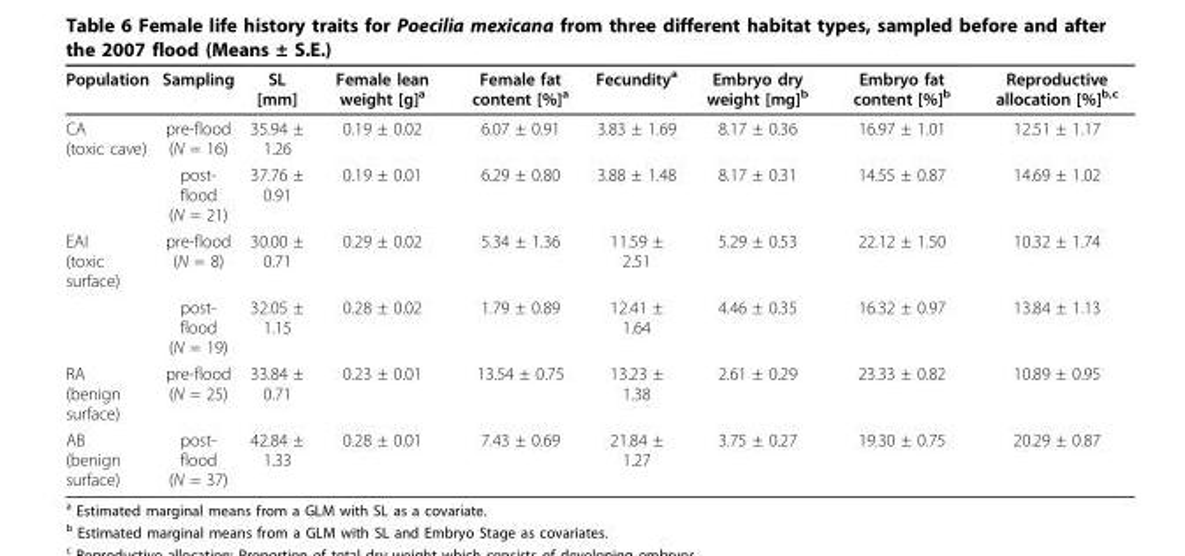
<table><thead><tr><td>Population</td><td>Sampling</td><td>SL [mm]</td><td>Female lean weight [g]<sup>a</sup></td><td>Female fat content [%]<sup>a</sup></td><td>Fecundity<sup>a</sup></td><td>Embryo dry weight [mg]<sup>b</sup></td><td>Embryo fat content [%]<sup>b</sup></td><td>Reproductive allocation [%]<sup>b,c</sup></td></tr></thead><tbody><tr><td rowspan="2">CA (toxic cave)</td><td>pre-flood (N = 16)</td><td>35.94 ± 1.26</td><td>0.19 ± 0.02</td><td>6.07 ± 0.91</td><td>3.83 ± 1.69</td><td>8.17 ± 0.36</td><td>16.97 ± 1.01</td><td>12.51 ± 1.17</td></tr><tr><td>post- flood (N = 21)</td><td>37.76 ± 0.91</td><td>0.19 ± 0.01</td><td>6.29 ± 0.80</td><td>3.88 ± 1.48</td><td>8.17 ± 0.31</td><td>14.55 ± 0.87</td><td>14.69 ± 1.02</td></tr><tr><td rowspan="2">EAI (toxic surface)</td><td>pre-flood (N = 8)</td><td>30.00 ± 0.71</td><td>0.29 ± 0.02</td><td>5.34 ± 1.36</td><td>11.59 ± 2.51</td><td>5.29 ± 0.53</td><td>22.12 ± 1.50</td><td>10.32 ± 1.74</td></tr><tr><td>post- flood (N = 19)</td><td>32.05 ± 1.15</td><td>0.28 ± 0.02</td><td>1.79 ± 0.89</td><td>12.41 ± 1.64</td><td>4.46 ± 0.35</td><td>16.32 ± 0.97</td><td>13.84 ± 1.13</td></tr><tr><td>RA (benign surface)</td><td>pre-flood (N = 25)</td><td>33.84 ± 0.71</td><td>0.23 ± 0.01</td><td>13.54 ± 0.75</td><td>13.23 ± 1.38</td><td>2.61 ± 0.29</td><td>23.33 ± 0.82</td><td>10.89 ± 0.95</td></tr><tr><td>AB (benign surface)</td><td>post- flood (N = 37)</td><td>42.84 ± 1.33</td><td>0.28 ± 0.01</td><td>7.43 ± 0.69</td><td>21.84 ± 1.27</td><td>3.75 ± 0.27</td><td>19.30 ± 0.75</td><td>20.29 ± 0.87</td></tr></tbody></table>